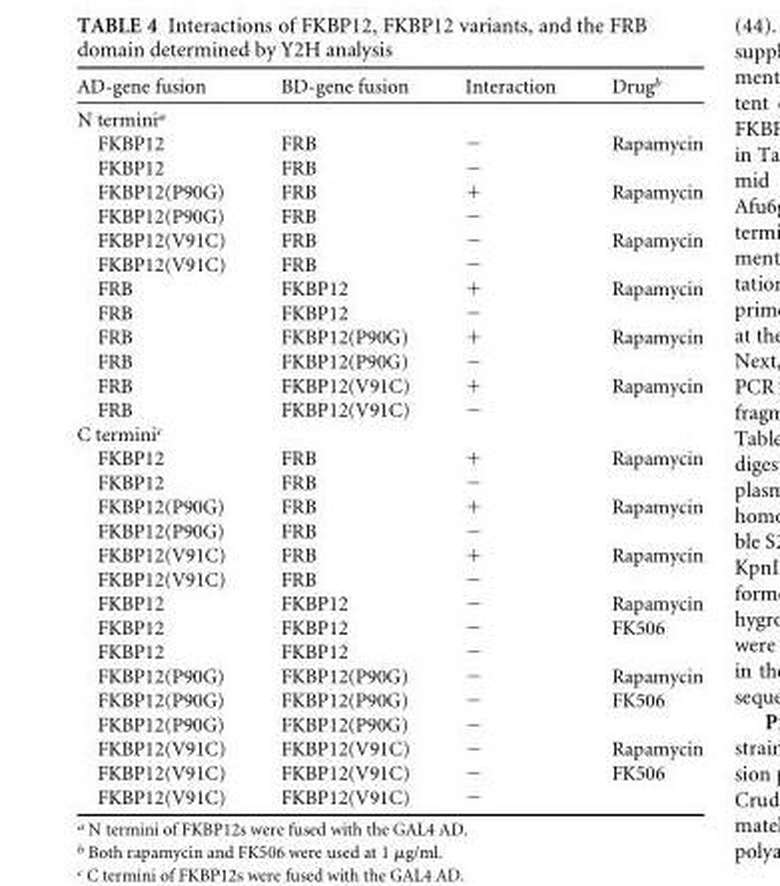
<table><thead><tr><td>AD-gene fusion</td><td>BD-gene fusion</td><td>Interaction</td><td>Drug<sup>b</sup></td></tr></thead><tbody><tr><td colspan="4">N termini<sup>a</sup></td></tr><tr><td>FKBP12</td><td>FRB</td><td>−</td><td>Rapamycin</td></tr><tr><td>FKBP12</td><td>FRB</td><td>−</td><td></td></tr><tr><td>FKBP12(P90G)</td><td>FRB</td><td>+</td><td>Rapamycin</td></tr><tr><td>FKBP12(P90G)</td><td>FRB</td><td>−</td><td></td></tr><tr><td>FKBP12(V91C)</td><td>FRB</td><td>−</td><td>Rapamycin</td></tr><tr><td>FKBP12(V91C)</td><td>FRB</td><td>−</td><td></td></tr><tr><td>FRB</td><td>FKBP12</td><td>+</td><td>Rapamycin</td></tr><tr><td>FRB</td><td>FKBP12</td><td>−</td><td></td></tr><tr><td>FRB</td><td>FKBP12(P90G)</td><td>+</td><td>Rapamycin</td></tr><tr><td>FRB</td><td>FKBP12(P90G)</td><td>−</td><td></td></tr><tr><td>FRB</td><td>FKBP12(V91C)</td><td>+</td><td>Rapamycin</td></tr><tr><td>FRB</td><td>FKBP12(V91C)</td><td>−</td><td></td></tr><tr><td colspan="4">C termini<sup>c</sup></td></tr><tr><td>FKBP12</td><td>FRB</td><td>+</td><td>Rapamycin</td></tr><tr><td>FKBP12</td><td>FRB</td><td>−</td><td></td></tr><tr><td>FKBP12(P90G)</td><td>FRB</td><td>+</td><td>Rapamycin</td></tr><tr><td>FKBP12(P90G)</td><td>FRB</td><td>−</td><td></td></tr><tr><td>FKBP12(V91C)</td><td>FRB</td><td>+</td><td>Rapamycin</td></tr><tr><td>FKBP12(V91C)</td><td>FRB</td><td>−</td><td></td></tr><tr><td>FKBP12</td><td>FKBP12</td><td>−</td><td>Rapamycin</td></tr><tr><td>FKBP12</td><td>FKBP12</td><td>−</td><td>FK506</td></tr><tr><td>FKBP12</td><td>FKBP12</td><td>−</td><td></td></tr><tr><td>FKBP12(P90G)</td><td>FKBP12(P90G)</td><td>−</td><td>Rapamycin</td></tr><tr><td>FKBP12(P90G)</td><td>FKBP12(P90G)</td><td>−</td><td>FK506</td></tr><tr><td>FKBP12(P90G)</td><td>FKBP12(P90G)</td><td>−</td><td></td></tr><tr><td>FKBP12(V91C)</td><td>FKBP12(V91C)</td><td>−</td><td>Rapamycin</td></tr><tr><td>FKBP12(V91C)</td><td>FKBP12(V91C)</td><td>−</td><td>FK506</td></tr><tr><td>FKBP12(V91C)</td><td>FKBP12(V91C)</td><td>−</td><td></td></tr></tbody></table>